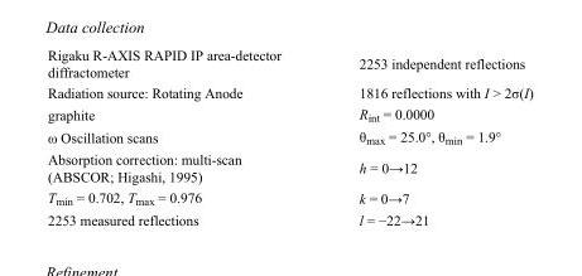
<table><tbody><tr><td>Rigaku R-AXIS RAPID IP area-detector diffractometer</td><td>2253 independent reflections</td></tr><tr><td>Radiation source: Rotating Anode</td><td>1816 reflections with I &gt; 2σ(I)</td></tr><tr><td>graphite</td><td>R<sub>int</sub> = 0.0000</td></tr><tr><td>ω Oscillation scans</td><td>θ<sub>max</sub> = 25.0°, θ<sub>min</sub> = 1.9°</td></tr><tr><td>Absorption correction: multi-scan (ABSCOR; Higashi, 1995)</td><td>h = 0→12</td></tr><tr><td>T<sub>min</sub> = 0.702, T<sub>max</sub> = 0.976</td><td>k = 0→7</td></tr><tr><td>2253 measured reflections</td><td>l = −22→21</td></tr></tbody></table>